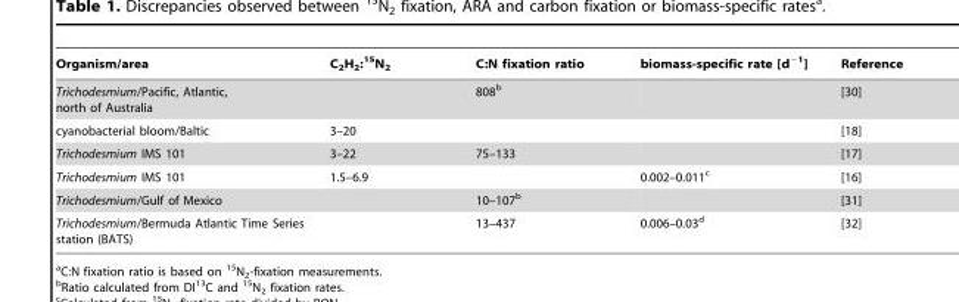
<table><thead><tr><td>Organism/area</td><td>C2H2:15N2</td><td>C:N fixation ratio</td><td>biomass-specific rate [d<sup>−1</sup>]</td><td>Reference</td></tr></thead><tbody><tr><td>Trichodesmium/Pacific, Atlantic, north of Australia</td><td></td><td>808<sup>b</sup></td><td></td><td>[30]</td></tr><tr><td>cyanobacterial bloom/Baltic</td><td>3–20</td><td></td><td></td><td>[18]</td></tr><tr><td>Trichodesmium IMS 101</td><td>3–22</td><td>75–133</td><td></td><td>[17]</td></tr><tr><td>Trichodesmium IMS 101</td><td>1.5–6.9</td><td></td><td>0.002–0.011<sup>c</sup></td><td>[16]</td></tr><tr><td>Trichodesmium/Gulf of Mexico</td><td></td><td>10–107<sup>b</sup></td><td></td><td>[31]</td></tr><tr><td>Trichodesmium/Bermuda Atlantic Time Series station (BATS)</td><td></td><td>13–437</td><td>0.006–0.03<sup>d</sup></td><td>[32]</td></tr></tbody></table>